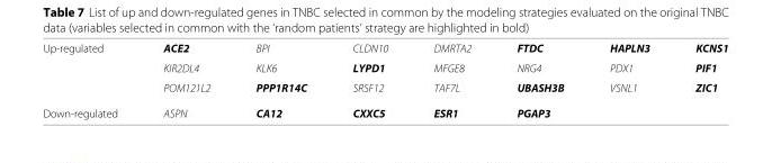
<table><tbody><tr><td rowspan="3">Up-regulated</td><td>ACE2</td><td>BPI</td><td>CLDN10</td><td>DMRTA2</td><td>FTDC</td><td>HAPLN3</td><td>KCNS1</td></tr><tr><td>KIR2DL4</td><td>KLK6</td><td>LYPD1</td><td>MFGE8</td><td>NRG4</td><td>PDX1</td><td>PIF1</td></tr><tr><td>POM121L2</td><td>PPP1R14C</td><td>SRSF12</td><td>TAF7L</td><td>UBASH3B</td><td>VSNL1</td><td>ZIC1</td></tr><tr><td>Down-regulated</td><td>ASPN</td><td>CA12</td><td>CXXC5</td><td>ESR1</td><td>PGAP3</td><td></td><td></td></tr></tbody></table>